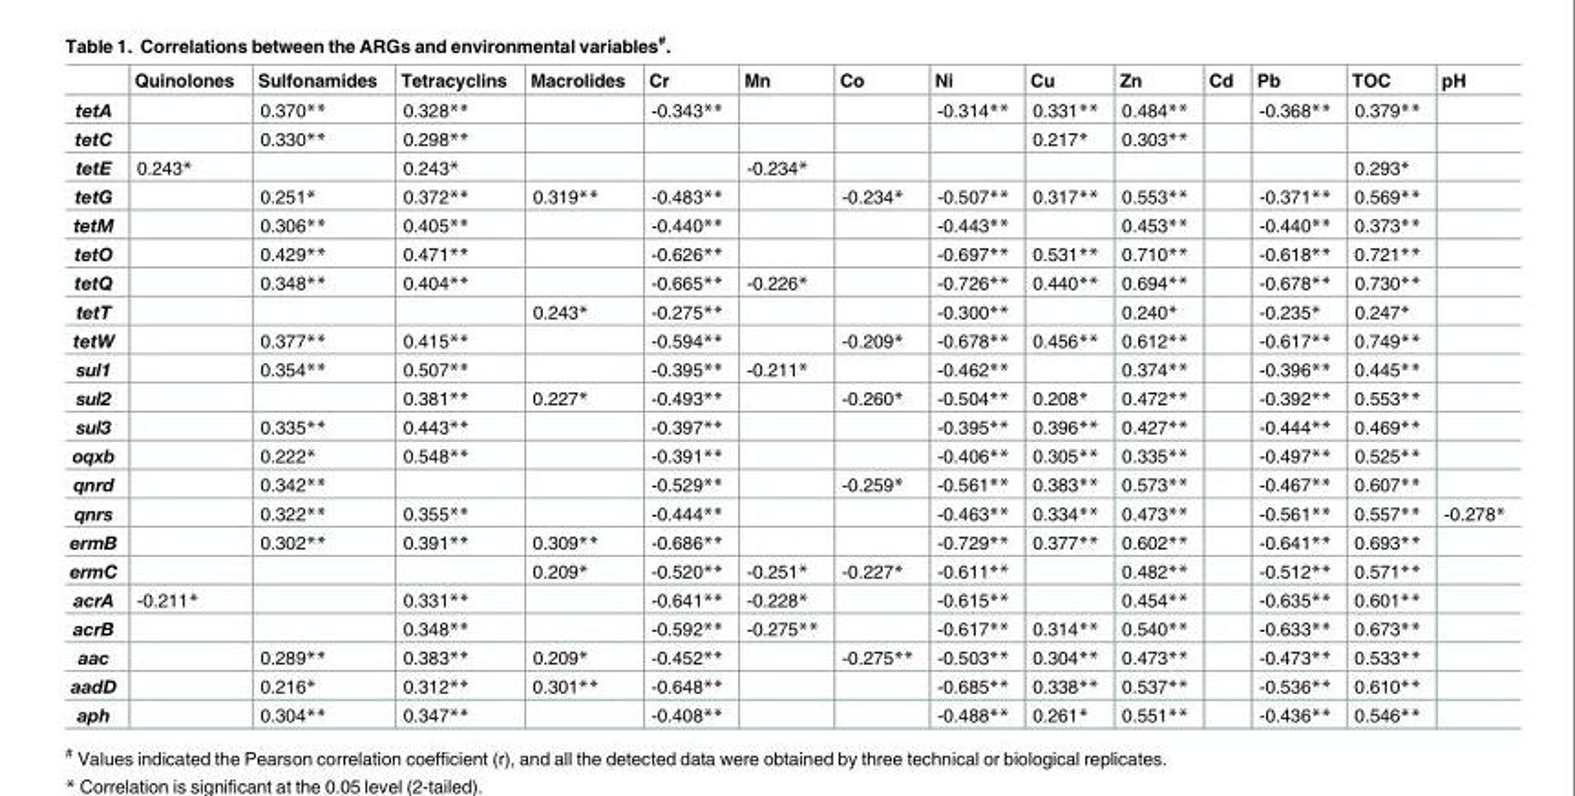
<table><thead><tr><td></td><td>Quinolones</td><td>Sulfonamides</td><td>Tetracyclins</td><td>Macrolides</td><td>Cr</td><td>Mn</td><td>Co</td><td>Ni</td><td>Cu</td><td>Zn</td><td>Cd</td><td>Pb</td><td>TOC</td><td>pH</td></tr></thead><tbody><tr><td>tetA</td><td></td><td>0.370**</td><td>0.328**</td><td></td><td>-0.343**</td><td></td><td></td><td>-0.314**</td><td>0.331**</td><td>0.484**</td><td></td><td>-0.368**</td><td>0.379**</td><td></td></tr><tr><td>tetC</td><td></td><td>0.330**</td><td>0.298**</td><td></td><td></td><td></td><td></td><td></td><td>0.217*</td><td>0.303**</td><td></td><td></td><td></td><td></td></tr><tr><td>tetE</td><td>0.243*</td><td></td><td>0.243*</td><td></td><td></td><td>-0.234*</td><td></td><td></td><td></td><td></td><td></td><td></td><td>0.293*</td><td></td></tr><tr><td>tetG</td><td></td><td>0.251*</td><td>0.372**</td><td>0.319**</td><td>-0.483**</td><td></td><td>-0.234*</td><td>-0.507**</td><td>0.317**</td><td>0.553**</td><td></td><td>-0.371**</td><td>0.569**</td><td></td></tr><tr><td>tetM</td><td></td><td>0.306**</td><td>0.405**</td><td></td><td>-0.440**</td><td></td><td></td><td>-0.443**</td><td></td><td>0.453**</td><td></td><td>-0.440**</td><td>0.373**</td><td></td></tr><tr><td>tetO</td><td></td><td>0.429**</td><td>0.471**</td><td></td><td>-0.626**</td><td></td><td></td><td>-0.697**</td><td>0.531**</td><td>0.710**</td><td></td><td>-0.618**</td><td>0.721**</td><td></td></tr><tr><td>tetQ</td><td></td><td>0.348**</td><td>0.404**</td><td></td><td>-0.665**</td><td>-0.226*</td><td></td><td>-0.726**</td><td>0.440**</td><td>0.694**</td><td></td><td>-0.678**</td><td>0.730**</td><td></td></tr><tr><td>tetT</td><td></td><td></td><td></td><td>0.243*</td><td>-0.275**</td><td></td><td></td><td>-0.300**</td><td></td><td>0.240*</td><td></td><td>-0.235*</td><td>0.247*</td><td></td></tr><tr><td>tetW</td><td></td><td>0.377**</td><td>0.415**</td><td></td><td>-0.594**</td><td></td><td>-0.209*</td><td>-0.678**</td><td>0.456**</td><td>0.612**</td><td></td><td>-0.617**</td><td>0.749**</td><td></td></tr><tr><td>sul1</td><td></td><td>0.354**</td><td>0.507**</td><td></td><td>-0.395**</td><td>-0.211*</td><td></td><td>-0.462**</td><td></td><td>0.374**</td><td></td><td>-0.396**</td><td>0.445**</td><td></td></tr><tr><td>sul2</td><td></td><td></td><td>0.381**</td><td>0.227*</td><td>-0.493**</td><td></td><td>-0.260*</td><td>-0.504**</td><td>0.208*</td><td>0.472**</td><td></td><td>-0.392**</td><td>0.553**</td><td></td></tr><tr><td>sul3</td><td></td><td>0.335**</td><td>0.443**</td><td></td><td>-0.397**</td><td></td><td></td><td>-0.395**</td><td>0.396**</td><td>0.427**</td><td></td><td>-0.444**</td><td>0.469**</td><td></td></tr><tr><td>oqxb</td><td></td><td>0.222*</td><td>0.548**</td><td></td><td>-0.391**</td><td></td><td></td><td>-0.406**</td><td>0.305**</td><td>0.335**</td><td></td><td>-0.497**</td><td>0.525**</td><td></td></tr><tr><td>qnrd</td><td></td><td>0.342**</td><td></td><td></td><td>-0.529**</td><td></td><td>-0.259*</td><td>-0.561**</td><td>0.383**</td><td>0.573**</td><td></td><td>-0.467**</td><td>0.607**</td><td></td></tr><tr><td>qnrs</td><td></td><td>0.322**</td><td>0.355**</td><td></td><td>-0.444**</td><td></td><td></td><td>-0.463**</td><td>0.334**</td><td>0.473**</td><td></td><td>-0.561**</td><td>0.557**</td><td>-0.278*</td></tr><tr><td>ermB</td><td></td><td>0.302**</td><td>0.391**</td><td>0.309**</td><td>-0.686**</td><td></td><td></td><td>-0.729**</td><td>0.377**</td><td>0.602**</td><td></td><td>-0.641**</td><td>0.693**</td><td></td></tr><tr><td>ermC</td><td></td><td></td><td></td><td>0.209*</td><td>-0.520**</td><td>-0.251*</td><td>-0.227*</td><td>-0.611**</td><td></td><td>0.482**</td><td></td><td>-0.512**</td><td>0.571**</td><td></td></tr><tr><td>acrA</td><td>-0.211*</td><td></td><td>0.331**</td><td></td><td>-0.641**</td><td>-0.228*</td><td></td><td>-0.615**</td><td></td><td>0.454**</td><td></td><td>-0.635**</td><td>0.601**</td><td></td></tr><tr><td>acrB</td><td></td><td></td><td>0.348**</td><td></td><td>-0.592**</td><td>-0.275**</td><td></td><td>-0.617**</td><td>0.314**</td><td>0.540**</td><td></td><td>-0.633**</td><td>0.673**</td><td></td></tr><tr><td>aac</td><td></td><td>0.289**</td><td>0.383**</td><td>0.209*</td><td>-0.452**</td><td></td><td>-0.275**</td><td>-0.503**</td><td>0.304**</td><td>0.473**</td><td></td><td>-0.473**</td><td>0.533**</td><td></td></tr><tr><td>aadD</td><td></td><td>0.216*</td><td>0.312**</td><td>0.301**</td><td>-0.648**</td><td></td><td></td><td>-0.685**</td><td>0.338**</td><td>0.537**</td><td></td><td>-0.536**</td><td>0.610**</td><td></td></tr><tr><td>aph</td><td></td><td>0.304**</td><td>0.347**</td><td></td><td>-0.408**</td><td></td><td></td><td>-0.488**</td><td>0.261*</td><td>0.551**</td><td></td><td>-0.436**</td><td>0.546**</td><td></td></tr></tbody></table>